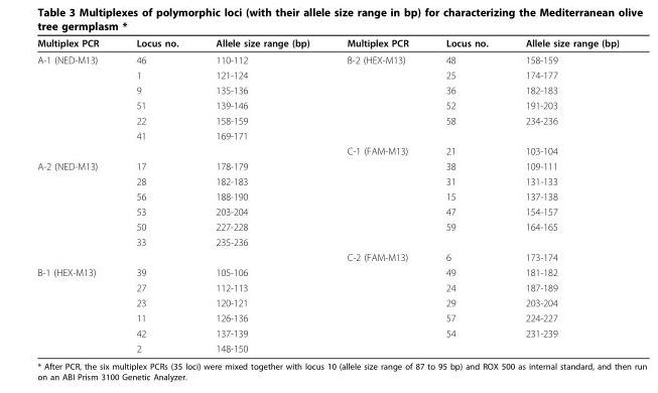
<table><tbody><tr><td>Multiplex PCR</td><td>Locus no.</td><td>Allele size range (bp)</td><td>Multiplex PCR</td><td>Locus no.</td><td>Allele size range (bp)</td></tr><tr><td rowspan="7">A-1 (NED-M13)</td><td>46</td><td>110-112</td><td>B-2 (HEX-M13)</td><td>48</td><td>158-159</td></tr><tr><td>1</td><td>121-124</td><td></td><td>25</td><td>174-177</td></tr><tr><td>9</td><td>135-136</td><td></td><td>36</td><td>182-183</td></tr><tr><td>51</td><td>139-146</td><td></td><td>52</td><td>191-203</td></tr><tr><td>22</td><td>158-159</td><td></td><td>58</td><td>234-236</td></tr><tr><td>41</td><td>169-171</td><td></td><td></td><td></td></tr><tr><td></td><td></td><td>C-1 (FAM-M13)</td><td>21</td><td>103-104</td></tr><tr><td rowspan="7">A-2 (NED-M13)</td><td>17</td><td>178-179</td><td></td><td>38</td><td>109-111</td></tr><tr><td>28</td><td>182-183</td><td></td><td>31</td><td>131-133</td></tr><tr><td>56</td><td>188-190</td><td></td><td>15</td><td>137-138</td></tr><tr><td>53</td><td>203-204</td><td></td><td>47</td><td>154-157</td></tr><tr><td>50</td><td>227-228</td><td></td><td>59</td><td>164-165</td></tr><tr><td>33</td><td>235-236</td><td></td><td></td><td></td></tr><tr><td></td><td></td><td>C-2 (FAM-M13)</td><td>6</td><td>173-174</td></tr><tr><td rowspan="6">B-1 (HEX-M13)</td><td>39</td><td>105-106</td><td></td><td>49</td><td>181-182</td></tr><tr><td>27</td><td>112-113</td><td></td><td>24</td><td>187-189</td></tr><tr><td>23</td><td>120-121</td><td></td><td>29</td><td>203-204</td></tr><tr><td>11</td><td>126-136</td><td></td><td>57</td><td>224-227</td></tr><tr><td>42</td><td>137-139</td><td></td><td>54</td><td>231-239</td></tr><tr><td>2</td><td>148-150</td><td></td><td></td><td></td></tr></tbody></table>